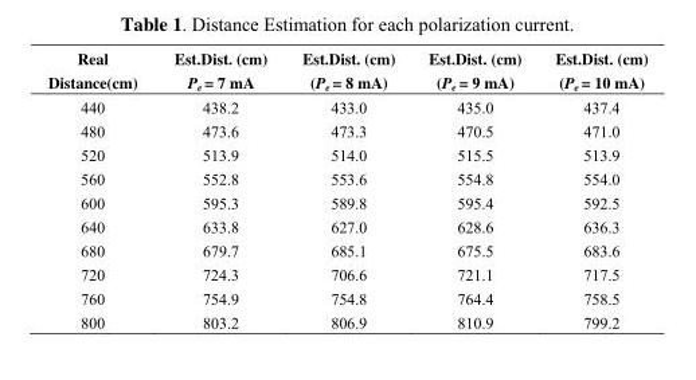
<table><thead><tr><td>Real Distance(cm)</td><td>Est.Dist. (cm) Pe = 7 mA</td><td>Est.Dist. (cm) (Pe = 8 mA)</td><td>Est.Dist. (cm) (Pe = 9 mA)</td><td>Est.Dist. (cm) (Pe = 10 mA)</td></tr></thead><tbody><tr><td>440</td><td>438.2</td><td>433.0</td><td>435.0</td><td>437.4</td></tr><tr><td>480</td><td>473.6</td><td>473.3</td><td>470.5</td><td>471.0</td></tr><tr><td>520</td><td>513.9</td><td>514.0</td><td>515.5</td><td>513.9</td></tr><tr><td>560</td><td>552.8</td><td>553.6</td><td>554.8</td><td>554.0</td></tr><tr><td>600</td><td>595.3</td><td>589.8</td><td>595.4</td><td>592.5</td></tr><tr><td>640</td><td>633.8</td><td>627.0</td><td>628.6</td><td>636.3</td></tr><tr><td>680</td><td>679.7</td><td>685.1</td><td>675.5</td><td>683.6</td></tr><tr><td>720</td><td>724.3</td><td>706.6</td><td>721.1</td><td>717.5</td></tr><tr><td>760</td><td>754.9</td><td>754.8</td><td>764.4</td><td>758.5</td></tr><tr><td>800</td><td>803.2</td><td>806.9</td><td>810.9</td><td>799.2</td></tr></tbody></table>